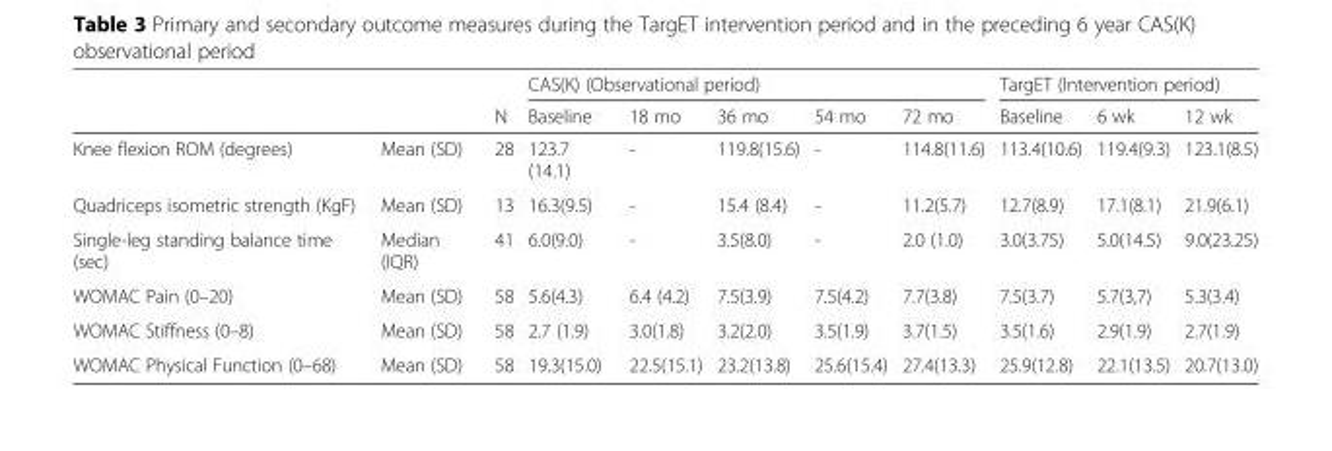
<table><thead><tr><td rowspan="2"></td><td rowspan="2"></td><td rowspan="2">N</td><td colspan="5">CAS(K) (Observational period)</td><td colspan="3">TargET (Intervention period)</td></tr><tr><td>Baseline</td><td>18 mo</td><td>36 mo</td><td>54 mo</td><td>72 mo</td><td>Baseline</td><td>6 wk</td><td>12 wk</td></tr></thead><tbody><tr><td>Knee flexion ROM (degrees)</td><td>Mean (SD)</td><td>28</td><td>123.7 (14.1)</td><td>-</td><td>119.8(15.6)</td><td>-</td><td>114.8(11.6)</td><td>113.4(10.6)</td><td>119.4(9.3)</td><td>123.1(8.5)</td></tr><tr><td>Quadriceps isometric strength (KgF)</td><td>Mean (SD)</td><td>13</td><td>16.3(9.5)</td><td>-</td><td>15.4 (8.4)</td><td>-</td><td>11.2(5.7)</td><td>12.7(8.9)</td><td>17.1(8.1)</td><td>21.9(6.1)</td></tr><tr><td>Single-leg standing balance time (sec)</td><td>Median (IQR)</td><td>41</td><td>6.0(9.0)</td><td>-</td><td>3.5(8.0)</td><td>-</td><td>2.0 (1.0)</td><td>3.0(3.75)</td><td>5.0(14.5)</td><td>9.0(23.25)</td></tr><tr><td>WOMAC Pain (0–20)</td><td>Mean (SD)</td><td>58</td><td>5.6(4.3)</td><td>6.4 (4.2)</td><td>7.5(3.9)</td><td>7.5(4.2)</td><td>7.7(3.8)</td><td>7.5(3.7)</td><td>5.7(3,7)</td><td>5.3(3.4)</td></tr><tr><td>WOMAC Stiffness (0–8)</td><td>Mean (SD)</td><td>58</td><td>2.7 (1.9)</td><td>3.0(1.8)</td><td>3.2(2.0)</td><td>3.5(1.9)</td><td>3.7(1.5)</td><td>3.5(1.6)</td><td>2.9(1.9)</td><td>2.7(1.9)</td></tr><tr><td>WOMAC Physical Function (0–68)</td><td>Mean (SD)</td><td>58</td><td>19.3(15.0)</td><td>22.5(15.1)</td><td>23.2(13.8)</td><td>25.6(15.4)</td><td>27.4(13.3)</td><td>25.9(12.8)</td><td>22.1(13.5)</td><td>20.7(13.0)</td></tr></tbody></table>